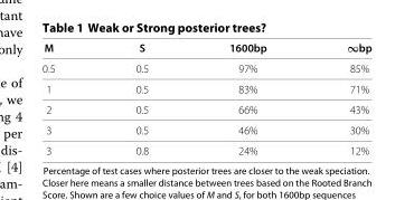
<table><thead><tr><td>M</td><td>S</td><td>1600bp</td><td>∞bp</td></tr></thead><tbody><tr><td>0.5</td><td>0.5</td><td>97%</td><td>85%</td></tr><tr><td>1</td><td>0.5</td><td>83%</td><td>71%</td></tr><tr><td>2</td><td>0.5</td><td>66%</td><td>43%</td></tr><tr><td>3</td><td>0.5</td><td>46%</td><td>30%</td></tr><tr><td>3</td><td>0.8</td><td>24%</td><td>12%</td></tr></tbody></table>